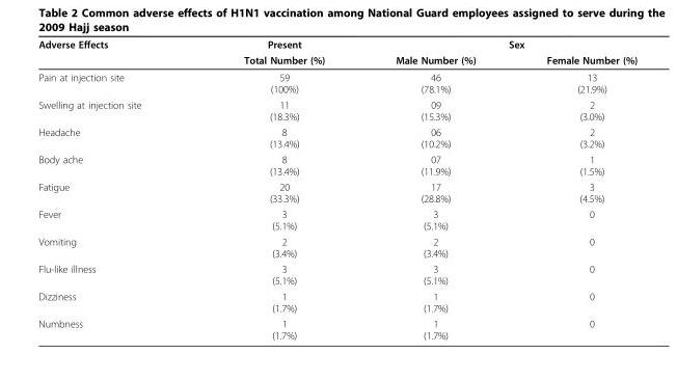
<table><thead><tr><td rowspan="2">Adverse Effects</td><td rowspan="2">Present Total Number (%)</td><td colspan="2">Sex</td></tr><tr><td>Male Number (%)</td><td>Female Number (%)</td></tr></thead><tbody><tr><td>Pain at injection site</td><td>59 (100%)</td><td>46 (78.1%)</td><td>13 (21.9%)</td></tr><tr><td>Swelling at injection site</td><td>11 (18.3%)</td><td>09 (15.3%)</td><td>2 (3.0%)</td></tr><tr><td>Headache</td><td>8 (13.4%)</td><td>06 (10.2%)</td><td>2 (3.2%)</td></tr><tr><td>Body ache</td><td>8 (13.4%)</td><td>07 (11.9%)</td><td>1 (1.5%)</td></tr><tr><td>Fatigue</td><td>20 (33.3%)</td><td>17 (28.8%)</td><td>3 (4.5%)</td></tr><tr><td>Fever</td><td>3 (5.1%)</td><td>3 (5.1%)</td><td>0</td></tr><tr><td>Vomiting</td><td>2 (3.4%)</td><td>2 (3.4%)</td><td>0</td></tr><tr><td>Flu-like illness</td><td>3 (5.1%)</td><td>3 (5.1%)</td><td>0</td></tr><tr><td>Dizziness</td><td>1 (1.7%)</td><td>1 (1.7%)</td><td>0</td></tr><tr><td>Numbness</td><td>1 (1.7%)</td><td>1 (1.7%)</td><td>0</td></tr></tbody></table>